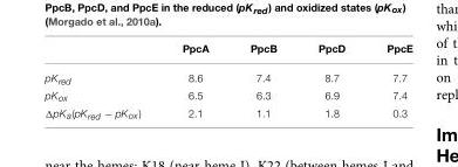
<table><thead><tr><td></td><td>PpcA</td><td>PpcB</td><td>PpcD</td><td>PpcE</td></tr></thead><tbody><tr><td>pK<sub>red</sub></td><td>8.6</td><td>7.4</td><td>8.7</td><td>7.7</td></tr><tr><td>pK<sub>ox</sub></td><td>6.5</td><td>6.3</td><td>6.9</td><td>7.4</td></tr><tr><td>�pKa(pKred − pKox)</td><td>2.1</td><td>1.1</td><td>1.8</td><td>0.3</td></tr></tbody></table>